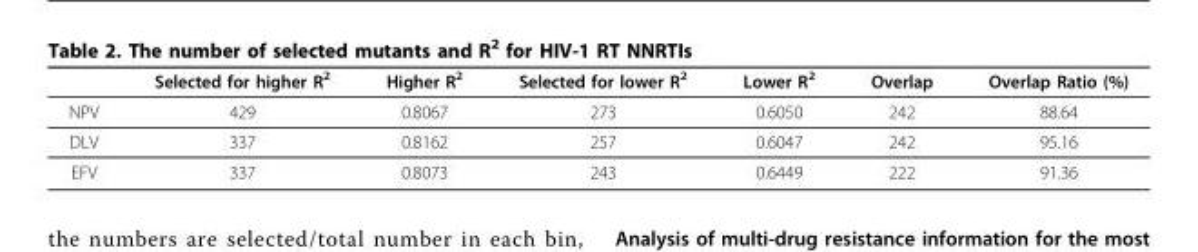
<table><thead><tr><td></td><td>Selected for higher R<sup>2</sup></td><td>Higher R<sup>2</sup></td><td>Selected for lower R<sup>2</sup></td><td>Lower R<sup>2</sup></td><td>Overlap</td><td>Overlap Ratio (%)</td></tr></thead><tbody><tr><td>NPV</td><td>429</td><td>0.8067</td><td>273</td><td>0.6050</td><td>242</td><td>88.64</td></tr><tr><td>DLV</td><td>337</td><td>0.8162</td><td>257</td><td>0.6047</td><td>242</td><td>95.16</td></tr><tr><td>EFV</td><td>337</td><td>0.8073</td><td>243</td><td>0.6449</td><td>222</td><td>91.36</td></tr></tbody></table>